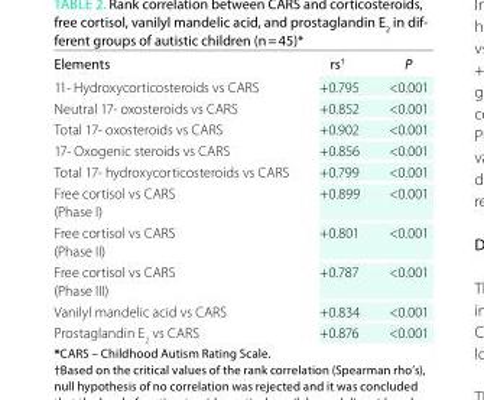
<table><thead><tr><td>elements</td><td>rs<sup>†</sup></td><td>P</td></tr></thead><tbody><tr><td>11- Hydroxycorticosteroids vs CARS</td><td>+0.795</td><td>&lt;0.001</td></tr><tr><td>Neutral 17- oxosteroids vs CARS</td><td>+0.852</td><td>&lt;0.001</td></tr><tr><td>Total 17- oxosteroids vs CARS</td><td>+0.902</td><td>&lt;0.001</td></tr><tr><td>17- Oxogenic steroids vs CARS</td><td>+0.856</td><td>&lt;0.001</td></tr><tr><td>Total 17- hydroxycorticosteroids vs CARS</td><td>+0.799</td><td>&lt;0.001</td></tr><tr><td>Free cortisol vs CARS (Phase I)</td><td>+0.899</td><td>&lt;0.001</td></tr><tr><td>Free cortisol vs CARS (Phase II)</td><td>+0.801</td><td>&lt;0.001</td></tr><tr><td>Free cortisol vs CARS (Phase III)</td><td>+0.787</td><td>&lt;0.001</td></tr><tr><td>Vanilyl mandelic acid vs CARS</td><td>+0.834</td><td>&lt;0.001</td></tr><tr><td>Prostaglandin E<sub>2</sub> vs CARS</td><td>+0.876</td><td>&lt;0.001</td></tr></tbody></table>